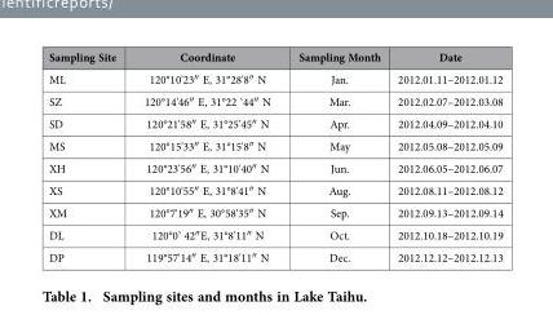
<table><thead><tr><td>Sampling Site</td><td>Coordinate</td><td>Sampling Month</td><td>Date</td></tr></thead><tbody><tr><td>ML</td><td>120°10&#x27;23″ E, 31°28&#x27;8″ N</td><td>Jan.</td><td>2012.01.11–2012.01.12</td></tr><tr><td>SZ</td><td>120°14&#x27;46″ E, 31°22 ‘44″ N</td><td>Mar.</td><td>2012.02.07–2012.03.08</td></tr><tr><td>SD</td><td>120°21&#x27;58″ E, 31°25&#x27;45″ N</td><td>Apr.</td><td>2012.04.09–2012.04.10</td></tr><tr><td>MS</td><td>120°15&#x27;33″ E, 31°15&#x27;8″ N</td><td>May</td><td>2012.05.08–2012.05.09</td></tr><tr><td>XH</td><td>120°23&#x27;56″ E, 31°10&#x27;40″ N</td><td>Jun.</td><td>2012.06.05–2012.06.07</td></tr><tr><td>XS</td><td>120°10&#x27;55″ E, 31°8&#x27;41″ N</td><td>Aug.</td><td>2012.08.11–2012.08.12</td></tr><tr><td>XM</td><td>120°7&#x27;19″ E, 30°58&#x27;35″ N</td><td>Sep.</td><td>2012.09.13–2012.09.14</td></tr><tr><td>DL</td><td>120°0’ 42″ E, 31°8&#x27;11″ N</td><td>Oct.</td><td>2012.10.18–2012.10.19</td></tr><tr><td>DP</td><td>119°57&#x27;14″ E, 31°18&#x27;11″ N</td><td>Dec.</td><td>2012.12.12–2012.12.13</td></tr></tbody></table>